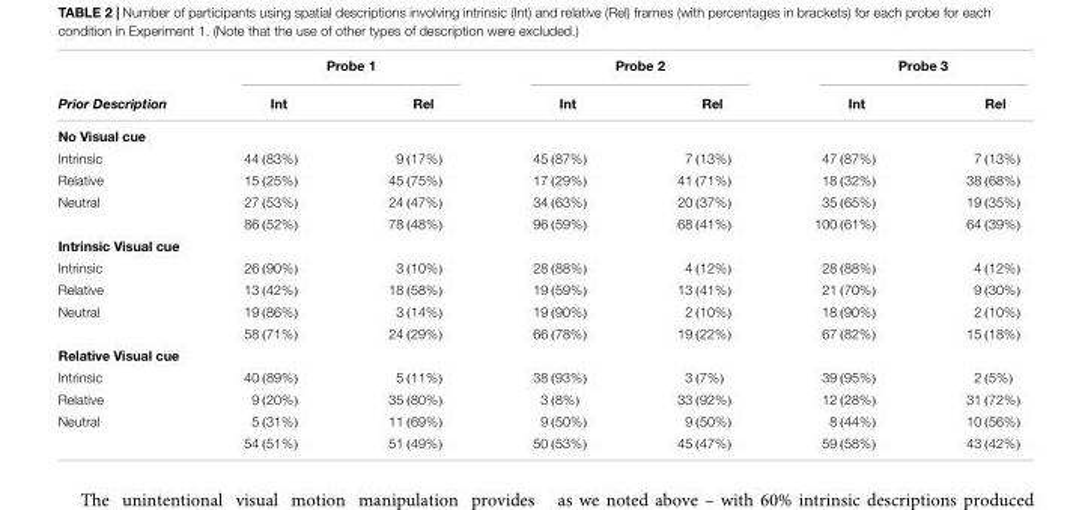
<table><thead><tr><td rowspan="2">Prior Description</td><td colspan="2">Probe 1</td><td colspan="2">Probe 2</td><td colspan="2">Probe 3</td></tr><tr><td>Int</td><td>Rel</td><td>Int</td><td>Rel</td><td>Int</td><td>Rel</td></tr></thead><tbody><tr><td colspan="7">No Visual cue</td></tr><tr><td>Intrinsic</td><td>44 (83%)</td><td>9 (17%)</td><td>45 (87%)</td><td>7 (13%)</td><td>47 (87%)</td><td>7 (13%)</td></tr><tr><td>Relative</td><td>15 (25%)</td><td>45 (75%)</td><td>17 (29%)</td><td>41 (71%)</td><td>18 (32%)</td><td>38 (68%)</td></tr><tr><td rowspan="2">Neutral</td><td>27 (53%)</td><td>24 (47%)</td><td>34 (63%)</td><td>20 (37%)</td><td>35 (65%)</td><td>19 (35%)</td></tr><tr><td>86 (52%)</td><td>78 (48%)</td><td>96 (59%)</td><td>68 (41%)</td><td>100 (61%)</td><td>64 (39%)</td></tr><tr><td colspan="7">Intrinsic Visual cue</td></tr><tr><td>Intrinsic</td><td>26 (90%)</td><td>3 (10%)</td><td>28 (88%)</td><td>4 (12%)</td><td>28 (88%)</td><td>4 (12%)</td></tr><tr><td>Relative</td><td>13 (42%)</td><td>18 (58%)</td><td>19 (59%)</td><td>13 (41%)</td><td>21 (70%)</td><td>9 (30%)</td></tr><tr><td rowspan="2">Neutral</td><td>19 (86%)</td><td>3 (14%)</td><td>19 (90%)</td><td>2 (10%)</td><td>18 (90%)</td><td>2 (10%)</td></tr><tr><td>58 (71%)</td><td>24 (29%)</td><td>66 (78%)</td><td>19 (22%)</td><td>67 (82%)</td><td>15 (18%)</td></tr><tr><td colspan="7">Relative Visual cue</td></tr><tr><td>Intrinsic</td><td>40 (89%)</td><td>5 (11%)</td><td>38 (93%)</td><td>3 (7%)</td><td>39 (95%)</td><td>2 (5%)</td></tr><tr><td>Relative</td><td>9 (20%)</td><td>35 (80%)</td><td>3 (8%)</td><td>33 (92%)</td><td>12 (28%)</td><td>31 (72%)</td></tr><tr><td rowspan="2">Neutral</td><td>5 (31%)</td><td>11 (69%)</td><td>9 (50%)</td><td>9 (50%)</td><td>8 (44%)</td><td>10 (56%)</td></tr><tr><td>54 (51%)</td><td>51 (49%)</td><td>50 (53%)</td><td>45 (47%)</td><td>59 (58%)</td><td>43 (42%)</td></tr></tbody></table>